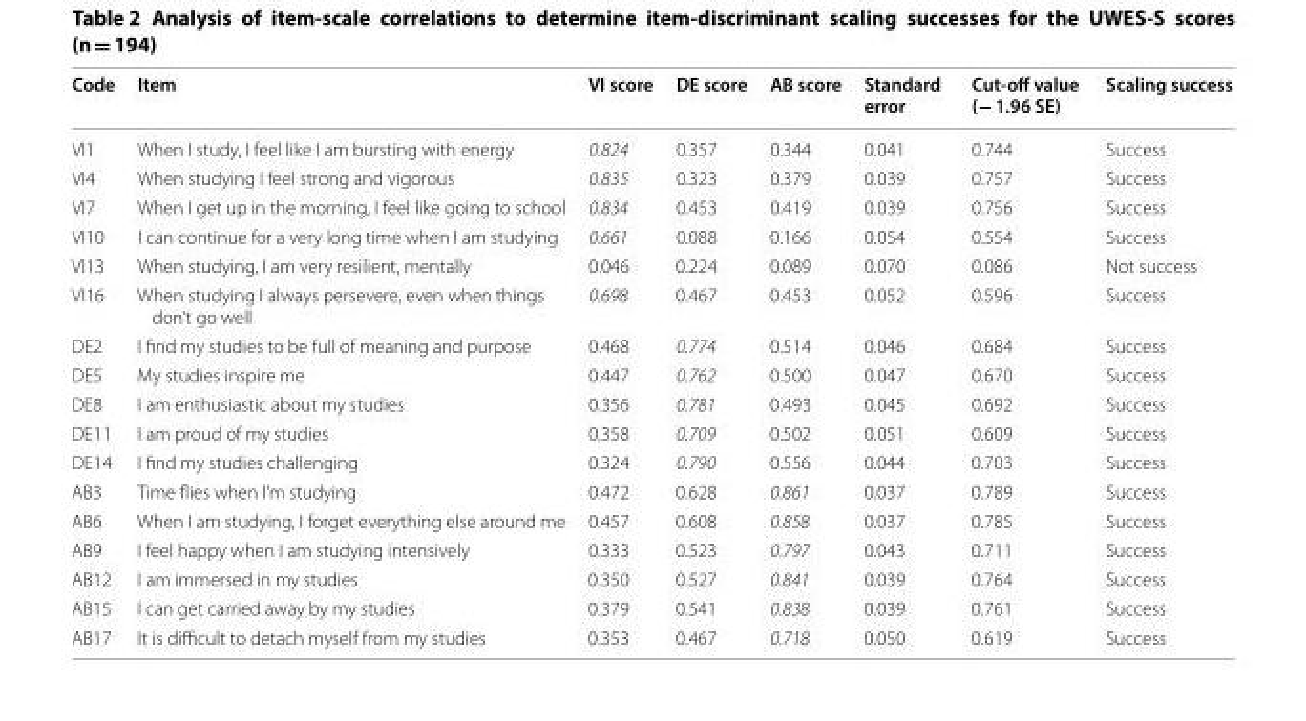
<table><thead><tr><td>Code</td><td>Item</td><td>VI score</td><td>DE score</td><td>AB score</td><td>Standard error</td><td>Cut‑off value (− 1.96 SE)</td><td>Scaling success</td></tr></thead><tbody><tr><td>VI1</td><td>When I study, I feel like I am bursting with energy</td><td>0.824</td><td>0.357</td><td>0.344</td><td>0.041</td><td>0.744</td><td>Success</td></tr><tr><td>VI4</td><td>When studying I feel strong and vigorous</td><td>0.835</td><td>0.323</td><td>0.379</td><td>0.039</td><td>0.757</td><td>Success</td></tr><tr><td>VI7</td><td>When I get up in the morning, I feel like going to school</td><td>0.834</td><td>0.453</td><td>0.419</td><td>0.039</td><td>0.756</td><td>Success</td></tr><tr><td>VI10</td><td>I can continue for a very long time when I am studying</td><td>0.661</td><td>0.088</td><td>0.166</td><td>0.054</td><td>0.554</td><td>Success</td></tr><tr><td>VI13</td><td>When studying, I am very resilient, mentally</td><td>0.046</td><td>0.224</td><td>0.089</td><td>0.070</td><td>0.086</td><td>Not success</td></tr><tr><td>VI16</td><td>When studying I always persevere, even when things don’t go well</td><td>0.698</td><td>0.467</td><td>0.453</td><td>0.052</td><td>0.596</td><td>Success</td></tr><tr><td>DE2</td><td>I find my studies to be full of meaning and purpose</td><td>0.468</td><td>0.774</td><td>0.514</td><td>0.046</td><td>0.684</td><td>Success</td></tr><tr><td>DE5</td><td>My studies inspire me</td><td>0.447</td><td>0.762</td><td>0.500</td><td>0.047</td><td>0.670</td><td>Success</td></tr><tr><td>DE8</td><td>I am enthusiastic about my studies</td><td>0.356</td><td>0.781</td><td>0.493</td><td>0.045</td><td>0.692</td><td>Success</td></tr><tr><td>DE11</td><td>I am proud of my studies</td><td>0.358</td><td>0.709</td><td>0.502</td><td>0.051</td><td>0.609</td><td>Success</td></tr><tr><td>DE14</td><td>I find my studies challenging</td><td>0.324</td><td>0.790</td><td>0.556</td><td>0.044</td><td>0.703</td><td>Success</td></tr><tr><td>AB3</td><td>Time flies when I’m studying</td><td>0.472</td><td>0.628</td><td>0.861</td><td>0.037</td><td>0.789</td><td>Success</td></tr><tr><td>AB6</td><td>When I am studying, I forget everything else around me</td><td>0.457</td><td>0.608</td><td>0.858</td><td>0.037</td><td>0.785</td><td>Success</td></tr><tr><td>AB9</td><td>I feel happy when I am studying intensively</td><td>0.333</td><td>0.523</td><td>0.797</td><td>0.043</td><td>0.711</td><td>Success</td></tr><tr><td>AB12</td><td>I am immersed in my studies</td><td>0.350</td><td>0.527</td><td>0.841</td><td>0.039</td><td>0.764</td><td>Success</td></tr><tr><td>AB15</td><td>I can get carried away by my studies</td><td>0.379</td><td>0.541</td><td>0.838</td><td>0.039</td><td>0.761</td><td>Success</td></tr><tr><td>AB17</td><td>It is difficult to detach myself from my studies</td><td>0.353</td><td>0.467</td><td>0.718</td><td>0.050</td><td>0.619</td><td>Success</td></tr></tbody></table>